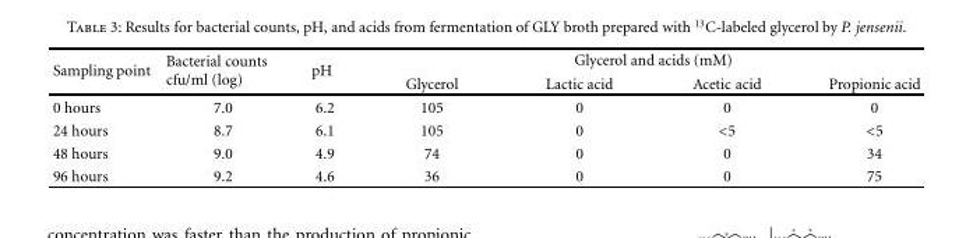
<table><thead><tr><td rowspan="2">Sampling point</td><td rowspan="2">Bacterial counts cfu/ml (log)</td><td rowspan="2">pH</td><td colspan="4">Glycerol and acids (mM)</td></tr><tr><td>Glycerol</td><td>Lactic acid</td><td>Acetic acid</td><td>Propionic acid</td></tr></thead><tbody><tr><td>0 hours</td><td>7.0</td><td>6.2</td><td>105</td><td>0</td><td>0</td><td>0</td></tr><tr><td>24 hours</td><td>8.7</td><td>6.1</td><td>105</td><td>0</td><td>&lt;5</td><td>&lt;5</td></tr><tr><td>48 hours</td><td>9.0</td><td>4.9</td><td>74</td><td>0</td><td>0</td><td>34</td></tr><tr><td>96 hours</td><td>9.2</td><td>4.6</td><td>36</td><td>0</td><td>0</td><td>75</td></tr></tbody></table>